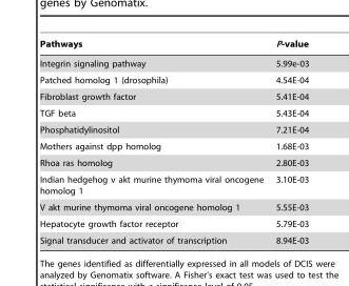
<table><thead><tr><td>Pathways</td><td>P-value</td></tr></thead><tbody><tr><td>Integrin signaling pathway</td><td>5.99e-03</td></tr><tr><td>Patched homolog 1 (drosophila)</td><td>4.54E-04</td></tr><tr><td>Fibroblast growth factor</td><td>5.41E-04</td></tr><tr><td>TGF beta</td><td>5.43E-04</td></tr><tr><td>Phosphatidylinositol</td><td>7.21E-04</td></tr><tr><td>Mothers against dpp homolog</td><td>1.68E-03</td></tr><tr><td>Rhoa ras homolog</td><td>2.80E-03</td></tr><tr><td>Indian hedgehog v akt murine thymoma viral oncogene homolog 1</td><td>3.10E-03</td></tr><tr><td>V akt murine thymoma viral oncogene homolog 1</td><td>5.55E-03</td></tr><tr><td>Hepatocyte growth factor receptor</td><td>5.79E-03</td></tr><tr><td>Signal transducer and activator of transcription</td><td>8.94E-03</td></tr></tbody></table>